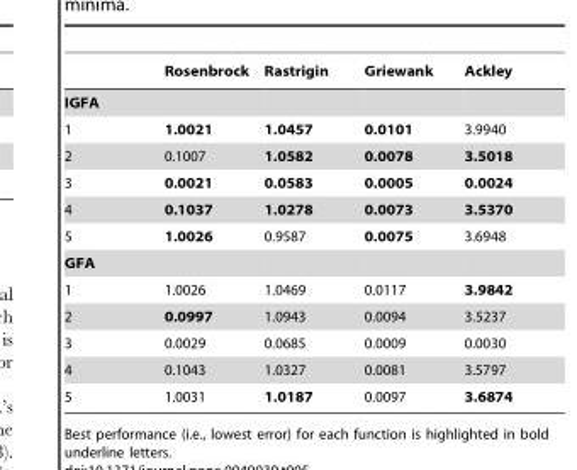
<table><thead><tr><td></td><td>Rosenbrock</td><td>Rastrigin</td><td>Griewank</td><td>Ackley</td></tr></thead><tbody><tr><td colspan="5">IGFA</td></tr><tr><td>1</td><td>1.0021</td><td>1.0457</td><td>0.0101</td><td>3.9940</td></tr><tr><td>2</td><td>0.1007</td><td>1.0582</td><td>0.0078</td><td>3.5018</td></tr><tr><td>3</td><td>0.0021</td><td>0.0583</td><td>0.0005</td><td>0.0024</td></tr><tr><td>4</td><td>0.1037</td><td>1.0278</td><td>0.0073</td><td>3.5370</td></tr><tr><td>5</td><td>1.0026</td><td>0.9587</td><td>0.0075</td><td>3.6948</td></tr><tr><td colspan="5">GFA</td></tr><tr><td>1</td><td>1.0026</td><td>1.0469</td><td>0.0117</td><td>3.9842</td></tr><tr><td>2</td><td>0.0997</td><td>1.0943</td><td>0.0094</td><td>3.5237</td></tr><tr><td>3</td><td>0.0029</td><td>0.0685</td><td>0.0009</td><td>0.0030</td></tr><tr><td>4</td><td>0.1043</td><td>1.0327</td><td>0.0081</td><td>3.5797</td></tr><tr><td>5</td><td>1.0031</td><td>1.0187</td><td>0.0097</td><td>3.6874</td></tr></tbody></table>